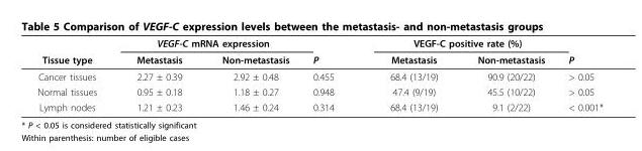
<table><thead><tr><td rowspan="2">Tissue type</td><td colspan="2">VEGF-C mRNA expression</td><td rowspan="2">P</td><td colspan="2">VEGF-C positive rate (%)</td><td rowspan="2">P</td></tr><tr><td>Metastasis</td><td>Non-metastasis</td><td>Metastasis</td><td>Non-metastasis</td></tr></thead><tbody><tr><td>Cancer tissues</td><td>2.27 ± 0.39</td><td>2.92 ± 0.48</td><td>0.455</td><td>68.4 (13/19)</td><td>90.9 (20/22)</td><td>&gt; 0.05</td></tr><tr><td>Normal tissues</td><td>0.95 ± 0.18</td><td>1.18 ± 0.27</td><td>0.948</td><td>47.4 (9/19)</td><td>45.5 (10/22)</td><td>&gt; 0.05</td></tr><tr><td>Lymph nodes</td><td>1.21 ± 0.23</td><td>1.46 ± 0.24</td><td>0.314</td><td>68.4 (13/19)</td><td>9.1 (2/22)</td><td>&lt; 0.001*</td></tr></tbody></table>